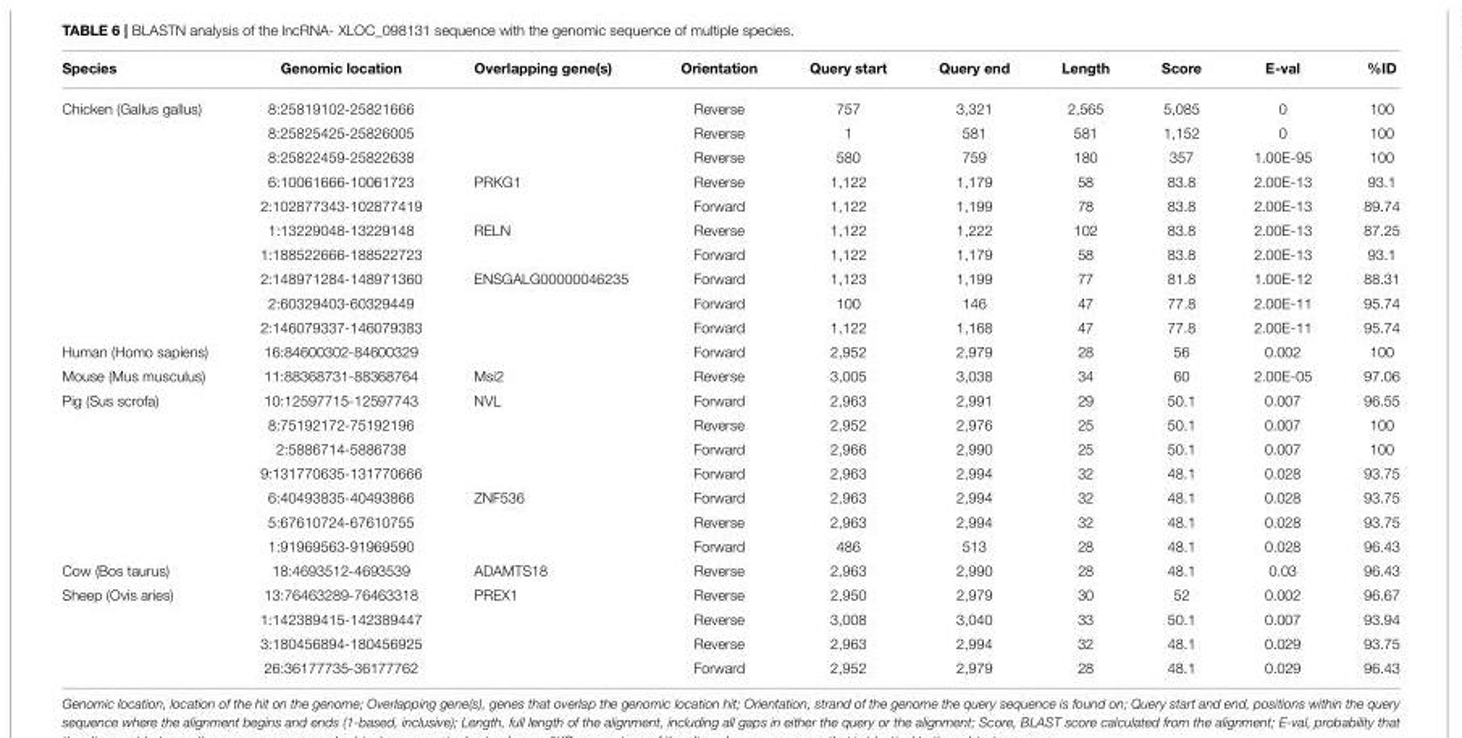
<table><thead><tr><td>Species</td><td>Genomic location</td><td>Overlapping gene(s)</td><td>Orientation</td><td>Query start</td><td>Query end</td><td>Length</td><td>Score</td><td>E-val</td><td>%ID</td></tr></thead><tbody><tr><td rowspan="10">Chicken (Gallus gallus)</td><td>8:25819102-25821666</td><td></td><td>Reverse</td><td>757</td><td>3,321</td><td>2,565</td><td>5,085</td><td>0</td><td>100</td></tr><tr><td>8:25825425-25826005</td><td></td><td>Reverse</td><td>1</td><td>581</td><td>581</td><td>1,152</td><td>0</td><td>100</td></tr><tr><td>8:25822459-25822638</td><td></td><td>Reverse</td><td>580</td><td>759</td><td>180</td><td>357</td><td>1.00E-95</td><td>100</td></tr><tr><td>6:10061666-10061723</td><td>PRKG1</td><td>Reverse</td><td>1,122</td><td>1,179</td><td>58</td><td>83.8</td><td>2.00E-13</td><td>93.1</td></tr><tr><td>2:102877343-102877419</td><td></td><td>Forward</td><td>1,122</td><td>1,199</td><td>78</td><td>83.8</td><td>2.00E-13</td><td>89.74</td></tr><tr><td>1:13229048-13229148</td><td>RELN</td><td>Reverse</td><td>1,122</td><td>1,222</td><td>102</td><td>83.8</td><td>2.00E-13</td><td>87.25</td></tr><tr><td>1:188522666-188522723</td><td></td><td>Forward</td><td>1,122</td><td>1,179</td><td>58</td><td>83.8</td><td>2.00E-13</td><td>93.1</td></tr><tr><td>2:148971284-148971360</td><td>ENSGALG00000046235</td><td>Forward</td><td>1,123</td><td>1,199</td><td>77</td><td>81.8</td><td>1.00E-12</td><td>88.31</td></tr><tr><td>2:60329403-60329449</td><td></td><td>Forward</td><td>100</td><td>146</td><td>47</td><td>77.8</td><td>2.00E-11</td><td>95.74</td></tr><tr><td>2:146079337-146079383</td><td></td><td>Forward</td><td>1,122</td><td>1,168</td><td>47</td><td>77.8</td><td>2.00E-11</td><td>95.74</td></tr><tr><td>Human (Homo sapiens)</td><td>16:84600302-84600329</td><td></td><td>Forward</td><td>2,952</td><td>2,979</td><td>28</td><td>56</td><td>0.002</td><td>100</td></tr><tr><td>Mouse (Mus musculus)</td><td>11:88368731-88368764</td><td>Msi2</td><td>Reverse</td><td>3,005</td><td>3,038</td><td>34</td><td>60</td><td>2.00E-05</td><td>97.06</td></tr><tr><td rowspan="7">Pig (Sus scrofa)</td><td>10:12597715-12597743</td><td>NVL</td><td>Forward</td><td>2,963</td><td>2,991</td><td>29</td><td>50.1</td><td>0.007</td><td>96.55</td></tr><tr><td>8:75192172-75192196</td><td></td><td>Reverse</td><td>2,952</td><td>2,976</td><td>25</td><td>50.1</td><td>0.007</td><td>100</td></tr><tr><td>2:5886714-5886738</td><td></td><td>Forward</td><td>2,966</td><td>2,990</td><td>25</td><td>50.1</td><td>0.007</td><td>100</td></tr><tr><td>9:131770635-131770666</td><td></td><td>Forward</td><td>2,963</td><td>2,994</td><td>32</td><td>48.1</td><td>0.028</td><td>93.75</td></tr><tr><td>6:40493835-40493866</td><td>ZNF536</td><td>Forward</td><td>2,963</td><td>2,994</td><td>32</td><td>48.1</td><td>0.028</td><td>93.75</td></tr><tr><td>5:67610724-67610755</td><td></td><td>Reverse</td><td>2,963</td><td>2,994</td><td>32</td><td>48.1</td><td>0.028</td><td>93.75</td></tr><tr><td>1:91969563-91969590</td><td></td><td>Forward</td><td>486</td><td>513</td><td>28</td><td>48.1</td><td>0.028</td><td>96.43</td></tr><tr><td>Cow (Bos taurus)</td><td>18:4693512-4693539</td><td>ADAMTS18</td><td>Reverse</td><td>2,963</td><td>2,990</td><td>28</td><td>48.1</td><td>0.03</td><td>96.43</td></tr><tr><td rowspan="4">Sheep (Ovis aries)</td><td>13:76463289-76463318</td><td>PREX1</td><td>Reverse</td><td>2,950</td><td>2,979</td><td>30</td><td>52</td><td>0.002</td><td>96.67</td></tr><tr><td>1:142389415-142389447</td><td></td><td>Reverse</td><td>3,008</td><td>3,040</td><td>33</td><td>50.1</td><td>0.007</td><td>93.94</td></tr><tr><td>3:180456894-180456925</td><td></td><td>Reverse</td><td>2,963</td><td>2,994</td><td>32</td><td>48.1</td><td>0.029</td><td>93.75</td></tr><tr><td>26:36177735-36177762</td><td></td><td>Forward</td><td>2,952</td><td>2,979</td><td>28</td><td>48.1</td><td>0.029</td><td>96.43</td></tr></tbody></table>